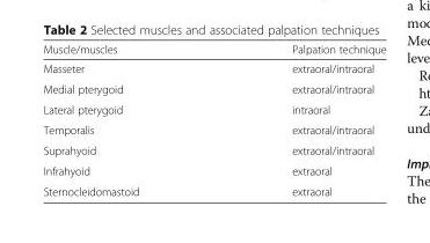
<table><thead><tr><td>Muscle/muscles</td><td>Palpation technique</td></tr></thead><tbody><tr><td>Masseter</td><td>extraoral/intraoral</td></tr><tr><td>Medial pterygoid</td><td>extraoral/intraoral</td></tr><tr><td>Lateral pterygoid</td><td>intraoral</td></tr><tr><td>Temporalis</td><td>extraoral/intraoral</td></tr><tr><td>Suprahyoid</td><td>extraoral/intraoral</td></tr><tr><td>Infrahyoid</td><td>extraoral</td></tr><tr><td>Sternocleidomastoid</td><td>extraoral</td></tr></tbody></table>